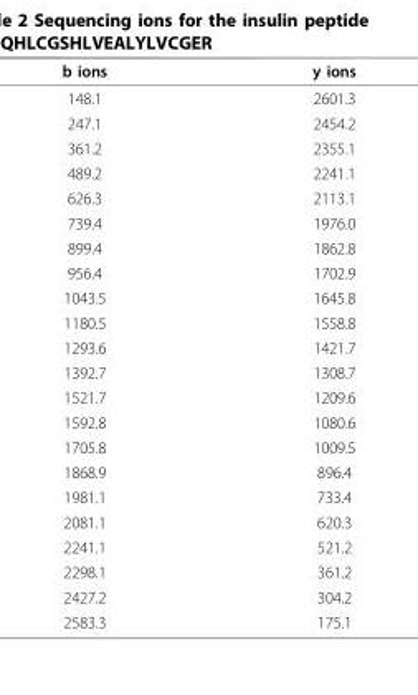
<table><thead><tr><td>b ions</td><td>y ions</td></tr></thead><tbody><tr><td>148.1</td><td>2601.3</td></tr><tr><td>247.1</td><td>2454.2</td></tr><tr><td>361.2</td><td>2355.1</td></tr><tr><td>489.2</td><td>2241.1</td></tr><tr><td>626.3</td><td>2113.1</td></tr><tr><td>739.4</td><td>1976.0</td></tr><tr><td>899.4</td><td>1862.8</td></tr><tr><td>956.4</td><td>1702.9</td></tr><tr><td>1043.5</td><td>1645.8</td></tr><tr><td>1180.5</td><td>1558.8</td></tr><tr><td>1293.6</td><td>1421.7</td></tr><tr><td>1392.7</td><td>1308.7</td></tr><tr><td>1521.7</td><td>1209.6</td></tr><tr><td>1592.8</td><td>1080.6</td></tr><tr><td>1705.8</td><td>1009.5</td></tr><tr><td>1868.9</td><td>896.4</td></tr><tr><td>1981.1</td><td>733.4</td></tr><tr><td>2081.1</td><td>620.3</td></tr><tr><td>2241.1</td><td>521.2</td></tr><tr><td>2298.1</td><td>361.2</td></tr><tr><td>2427.2</td><td>304.2</td></tr><tr><td>2583.3</td><td>175.1</td></tr></tbody></table>